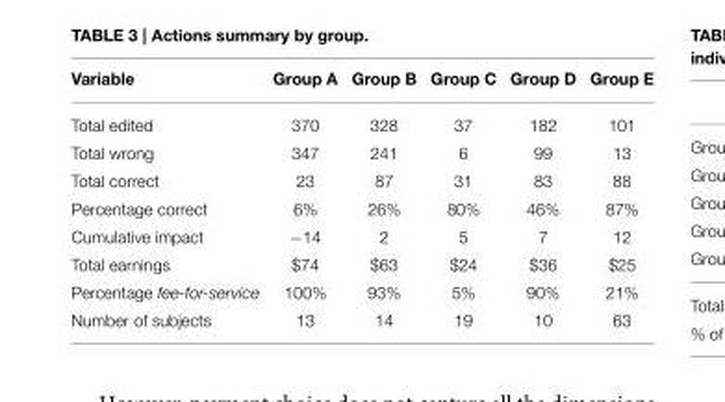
<table><thead><tr><td>Variable</td><td>Group A</td><td>Group B</td><td>Group C</td><td>Group D</td><td>Group E</td></tr></thead><tbody><tr><td>Total edited</td><td>370</td><td>328</td><td>37</td><td>182</td><td>101</td></tr><tr><td>Total wrong</td><td>347</td><td>241</td><td>6</td><td>99</td><td>13</td></tr><tr><td>Total correct</td><td>23</td><td>87</td><td>31</td><td>83</td><td>88</td></tr><tr><td>Percentage correct</td><td>6%</td><td>26%</td><td>80%</td><td>46%</td><td>87%</td></tr><tr><td>Cumulative impact</td><td>−14</td><td>2</td><td>5</td><td>7</td><td>12</td></tr><tr><td>Total earnings</td><td>$74</td><td>$63</td><td>$24</td><td>$36</td><td>$25</td></tr><tr><td>Percentage fee-for-service</td><td>100%</td><td>93%</td><td>5%</td><td>90%</td><td>21%</td></tr><tr><td>Number of subjects</td><td>13</td><td>14</td><td>19</td><td>10</td><td>63</td></tr></tbody></table>